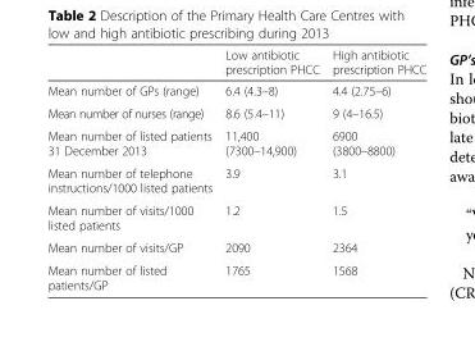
<table><thead><tr><td></td><td>Low antibiotic prescription PHCC</td><td>High antibiotic prescription PHCC</td></tr></thead><tbody><tr><td>Mean number of GPs (range)</td><td>6.4 (4.3–8)</td><td>4.4 (2.75–6)</td></tr><tr><td>Mean number of nurses (range)</td><td>8.6 (5.4–11)</td><td>9 (4–16.5)</td></tr><tr><td>Mean number of listed patients 31 December 2013</td><td>11,400 (7300–14,900)</td><td>6900 (3800–8800)</td></tr><tr><td>Mean number of telephone instructions/1000 listed patients</td><td>3.9</td><td>3.1</td></tr><tr><td>Mean number of visits/1000 listed patients</td><td>1.2</td><td>1.5</td></tr><tr><td>Mean number of visits/GP</td><td>2090</td><td>2364</td></tr><tr><td>Mean number of listed patients/GP</td><td>1765</td><td>1568</td></tr></tbody></table>